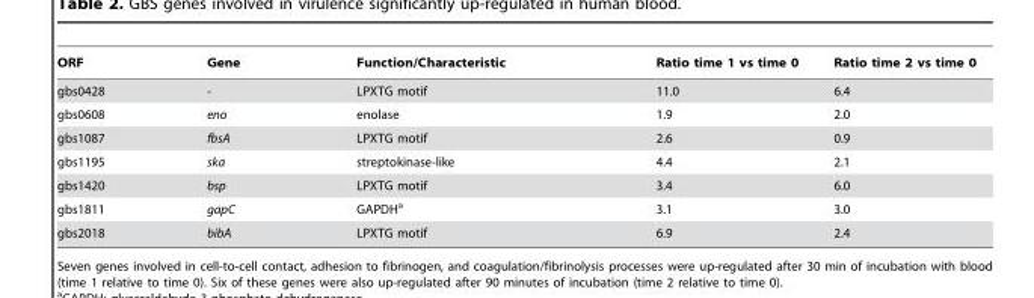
<table><thead><tr><td>ORF</td><td>Gene</td><td>Function/Characteristic</td><td>Ratio time 1 vs time 0</td><td>Ratio time 2 vs time 0</td></tr></thead><tbody><tr><td>gbs0428</td><td>-</td><td>LPXTG motif</td><td>11.0</td><td>6.4</td></tr><tr><td>gbs0608</td><td>eno</td><td>enolase</td><td>1.9</td><td>2.0</td></tr><tr><td>gbs1087</td><td>fbsA</td><td>LPXTG motif</td><td>2.6</td><td>0.9</td></tr><tr><td>gbs1195</td><td>ska</td><td>streptokinase-like</td><td>4.4</td><td>2.1</td></tr><tr><td>gbs1420</td><td>bsp</td><td>LPXTG motif</td><td>3.4</td><td>6.0</td></tr><tr><td>gbs1811</td><td>gapC</td><td>GAPDH<sup>a</sup></td><td>3.1</td><td>3.0</td></tr><tr><td>gbs2018</td><td>bibA</td><td>LPXTG motif</td><td>6.9</td><td>2.4</td></tr></tbody></table>